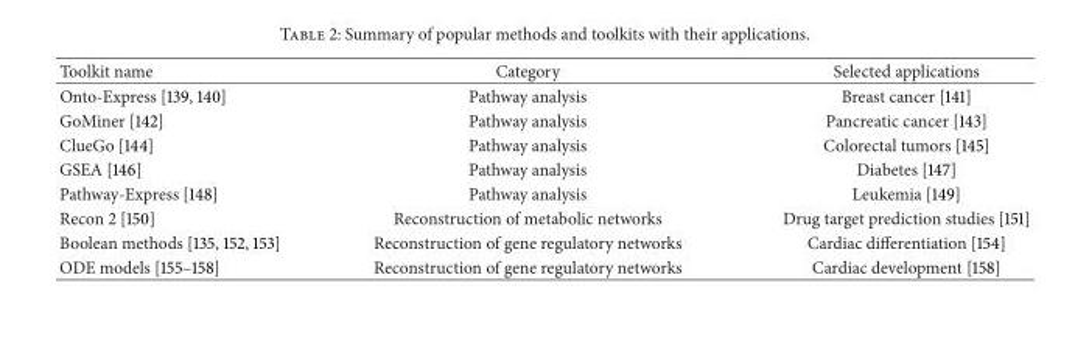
<table><thead><tr><td>Toolkit name</td><td>Category</td><td>Selected applications</td></tr></thead><tbody><tr><td>Onto-Express [139, 140]</td><td>Pathway analysis</td><td>Breast cancer [141]</td></tr><tr><td>GoMiner [142]</td><td>Pathway analysis</td><td>Pancreatic cancer [143]</td></tr><tr><td>ClueGo [144]</td><td>Pathway analysis</td><td>Colorectal tumors [145]</td></tr><tr><td>GSEA [146]</td><td>Pathway analysis</td><td>Diabetes [147]</td></tr><tr><td>Pathway-Express [148]</td><td>Pathway analysis</td><td>Leukemia [149]</td></tr><tr><td>Recon 2 [150]</td><td>Reconstruction of metabolic networks</td><td>Drug target prediction studies [151]</td></tr><tr><td>Boolean methods [135, 152, 153]</td><td>Reconstruction of gene regulatory networks</td><td>Cardiac differentiation [154]</td></tr><tr><td>ODE models [155–158]</td><td>Reconstruction of gene regulatory networks</td><td>Cardiac development [158]</td></tr></tbody></table>